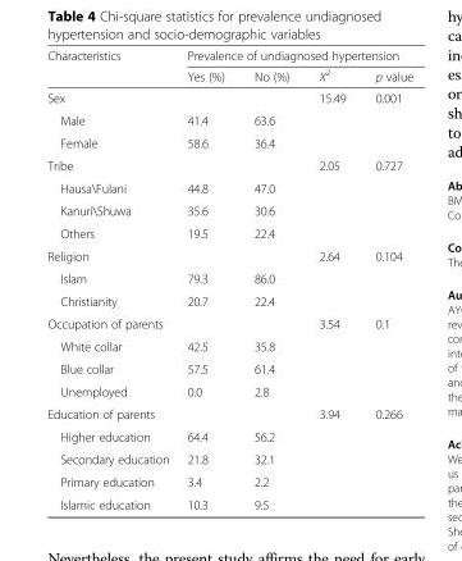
<table><thead><tr><td rowspan="2">Characteristics</td><td colspan="4">Prevalence of undiagnosed hypertension</td></tr><tr><td>Yes (%)</td><td>No (%)</td><td>X<sup>2</sup></td><td>p value</td></tr></thead><tbody><tr><td>Sex</td><td></td><td></td><td>15.49</td><td>0.001</td></tr><tr><td>Male</td><td>41.4</td><td>63.6</td><td></td><td></td></tr><tr><td>Female</td><td>58.6</td><td>36.4</td><td></td><td></td></tr><tr><td>Tribe</td><td></td><td></td><td>2.05</td><td>0.727</td></tr><tr><td>Hausa\Fulani</td><td>44.8</td><td>47.0</td><td></td><td></td></tr><tr><td>Kanuri\Shuwa</td><td>35.6</td><td>30.6</td><td></td><td></td></tr><tr><td>Others</td><td>19.5</td><td>22.4</td><td></td><td></td></tr><tr><td>Religion</td><td></td><td></td><td>2.64</td><td>0.104</td></tr><tr><td>Islam</td><td>79.3</td><td>86.0</td><td></td><td></td></tr><tr><td>Christianity</td><td>20.7</td><td>22.4</td><td></td><td></td></tr><tr><td>Occupation of parents</td><td></td><td></td><td>3.54</td><td>0.1</td></tr><tr><td>White collar</td><td>42.5</td><td>35.8</td><td></td><td></td></tr><tr><td>Blue collar</td><td>57.5</td><td>61.4</td><td></td><td></td></tr><tr><td>Unemployed</td><td>0.0</td><td>2.8</td><td></td><td></td></tr><tr><td>Education of parents</td><td></td><td></td><td>3.94</td><td>0.266</td></tr><tr><td>Higher education</td><td>64.4</td><td>56.2</td><td></td><td></td></tr><tr><td>Secondary education</td><td>21.8</td><td>32.1</td><td></td><td></td></tr><tr><td>Primary education</td><td>3.4</td><td>2.2</td><td></td><td></td></tr><tr><td>Islamic education</td><td>10.3</td><td>9.5</td><td></td><td></td></tr></tbody></table>